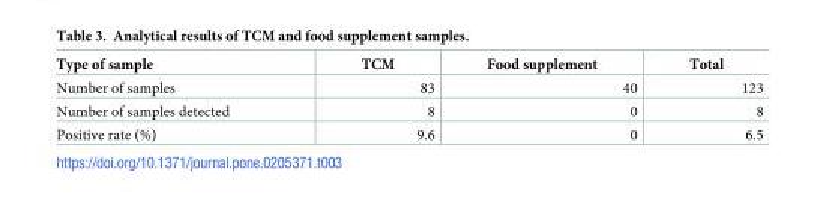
<table><thead><tr><td>Type of sample</td><td>TCM</td><td>Food supplement</td><td>Total</td></tr></thead><tbody><tr><td>Number of samples</td><td>83</td><td>40</td><td>123</td></tr><tr><td>Number of samples detected</td><td>8</td><td>0</td><td>8</td></tr><tr><td>Positive rate (%)</td><td>9.6</td><td>0</td><td>6.5</td></tr></tbody></table>